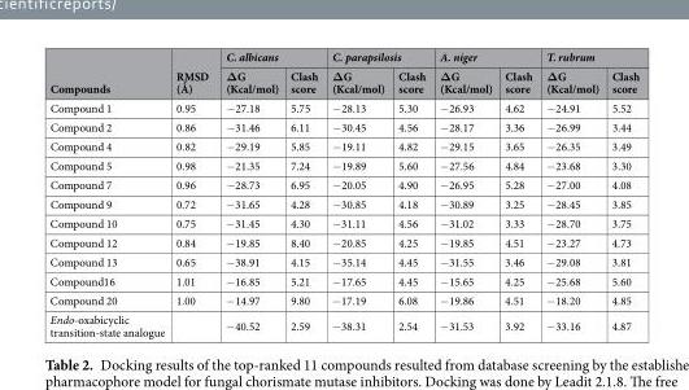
<table><thead><tr><td rowspan="2">Compounds</td><td rowspan="2">RMSD (Ǻ)</td><td colspan="2">C. albicans</td><td colspan="2">C. parapsilosis</td><td colspan="2">A. niger</td><td colspan="2">T. rubrum</td></tr><tr><td>ΔG (Kcal/mol)</td><td>Clash score</td><td>ΔG (Kcal/mol)</td><td>Clash score</td><td>ΔG (Kcal/mol)</td><td>Clash score</td><td>ΔG (Kcal/mol)</td><td>Clash score</td></tr></thead><tbody><tr><td>Compound 1</td><td>0.95</td><td>−27.18</td><td>5.75</td><td>−28.13</td><td>5.30</td><td>−26.93</td><td>4.62</td><td>−24.91</td><td>5.52</td></tr><tr><td>Compound 2</td><td>0.86</td><td>−31.46</td><td>6.11</td><td>−30.45</td><td>4.56</td><td>−28.17</td><td>3.36</td><td>−26.99</td><td>3.44</td></tr><tr><td>Compound 4</td><td>0.82</td><td>−29.19</td><td>5.85</td><td>−19.11</td><td>4.82</td><td>−29.15</td><td>3.65</td><td>−26.35</td><td>3.49</td></tr><tr><td>Compound 5</td><td>0.98</td><td>−21.35</td><td>7.24</td><td>−19.89</td><td>5.60</td><td>−27.56</td><td>4.84</td><td>−23.68</td><td>3.30</td></tr><tr><td>Compound 7</td><td>0.96</td><td>−28.73</td><td>6.95</td><td>−20.05</td><td>4.90</td><td>−26.95</td><td>5.28</td><td>−27.00</td><td>4.08</td></tr><tr><td>Compound 9</td><td>0.72</td><td>−31.65</td><td>4.28</td><td>−30.85</td><td>4.18</td><td>−30.89</td><td>3.25</td><td>−28.45</td><td>3.85</td></tr><tr><td>Compound 10</td><td>0.75</td><td>−31.45</td><td>4.30</td><td>−31.11</td><td>4.56</td><td>−31.02</td><td>3.33</td><td>−28.70</td><td>3.75</td></tr><tr><td>Compound 12</td><td>0.84</td><td>−19.85</td><td>8.40</td><td>−20.85</td><td>4.25</td><td>−19.85</td><td>4.51</td><td>−23.27</td><td>4.73</td></tr><tr><td>Compound 13</td><td>0.65</td><td>−38.91</td><td>4.15</td><td>−35.14</td><td>4.45</td><td>−31.55</td><td>3.46</td><td>−29.08</td><td>3.81</td></tr><tr><td>Compound16</td><td>1.01</td><td>−16.85</td><td>5.21</td><td>−17.65</td><td>4.45</td><td>−15.65</td><td>4.25</td><td>−25.68</td><td>5.60</td></tr><tr><td>Compound 20</td><td>1.00</td><td>−14.97</td><td>9.80</td><td>−17.19</td><td>6.08</td><td>−19.86</td><td>4.51</td><td>−18.20</td><td>4.85</td></tr><tr><td>Endo-oxabicyclic transition-state analogue</td><td></td><td>−40.52</td><td>2.59</td><td>−38.31</td><td>2.54</td><td>−31.53</td><td>3.92</td><td>−33.16</td><td>4.87</td></tr></tbody></table>